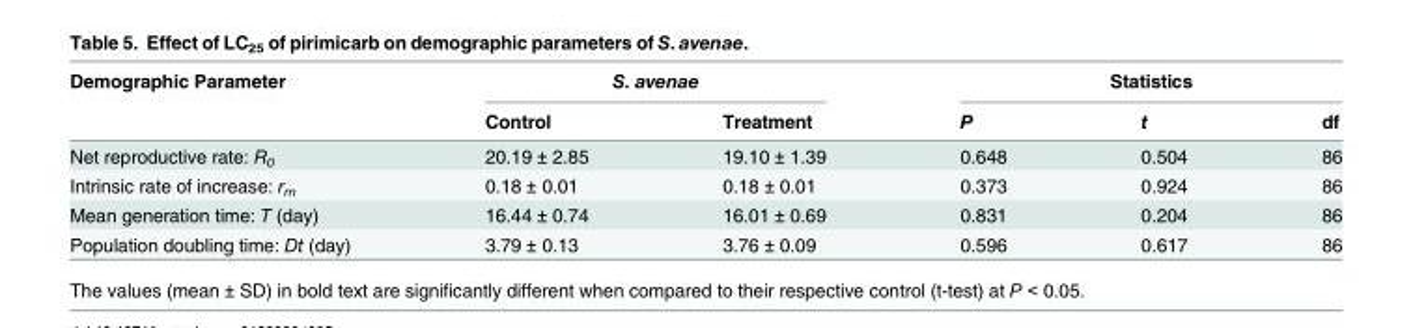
<table><thead><tr><td rowspan="2">Demographic Parameter</td><td colspan="2">S. avenae</td><td colspan="3">Statistics</td></tr><tr><td>Control</td><td>Treatment</td><td>P</td><td>t</td><td>df</td></tr></thead><tbody><tr><td>Net reproductive rate: R<sub>0</sub></td><td>20.19 ± 2.85</td><td>19.10 ± 1.39</td><td>0.648</td><td>0.504</td><td>86</td></tr><tr><td>Intrinsic rate of increase: r<sub>m</sub></td><td>0.18 ± 0.01</td><td>0.18 ± 0.01</td><td>0.373</td><td>0.924</td><td>86</td></tr><tr><td>Mean generation time: T (day)</td><td>16.44 ± 0.74</td><td>16.01 ± 0.69</td><td>0.831</td><td>0.204</td><td>86</td></tr><tr><td>Population doubling time: Dt (day)</td><td>3.79 ± 0.13</td><td>3.76 ± 0.09</td><td>0.596</td><td>0.617</td><td>86</td></tr></tbody></table>